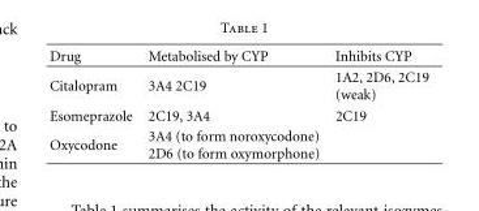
<table><thead><tr><td>Drug</td><td>Metabolised by CYP</td><td>Inhibits CYP</td></tr></thead><tbody><tr><td>Citalopram</td><td>3A4 2C19</td><td>1A2, 2D6, 2C19 (weak)</td></tr><tr><td>Esomeprazole</td><td>2C19, 3A4</td><td>2C19</td></tr><tr><td>Oxycodone</td><td>3A4 (to form noroxycodone) 2D6 (to form oxymorphone)</td><td></td></tr></tbody></table>